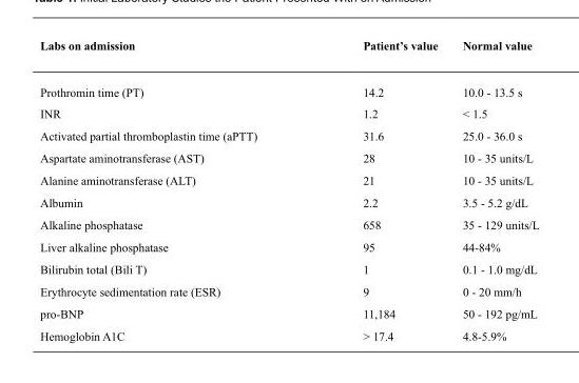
<table><thead><tr><td>Labs on admission</td><td>Patient’s value</td><td>Normal value</td></tr></thead><tbody><tr><td>Prothromin time (PT)</td><td>14.2</td><td>10.0 - 13.5 s</td></tr><tr><td>INR</td><td>1.2</td><td>&lt; 1.5</td></tr><tr><td>Activated partial thromboplastin time (aPTT)</td><td>31.6</td><td>25.0 - 36.0 s</td></tr><tr><td>Aspartate aminotransferase (AST)</td><td>28</td><td>10 - 35 units/L</td></tr><tr><td>Alanine aminotransferase (ALT)</td><td>21</td><td>10 - 35 units/L</td></tr><tr><td>Albumin</td><td>2.2</td><td>3.5 - 5.2 g/dL</td></tr><tr><td>Alkaline phosphatase</td><td>658</td><td>35 - 129 units/L</td></tr><tr><td>Liver alkaline phosphatase</td><td>95</td><td>44-84%</td></tr><tr><td>Bilirubin total (Bili T)</td><td>1</td><td>0.1 - 1.0 mg/dL</td></tr><tr><td>Erythrocyte sedimentation rate (ESR)</td><td>9</td><td>0 - 20 mm/h</td></tr><tr><td>pro-BNP</td><td>11,184</td><td>50 - 192 pg/mL</td></tr><tr><td>Hemoglobin A1C</td><td>&gt; 17.4</td><td>4.8-5.9%</td></tr></tbody></table>